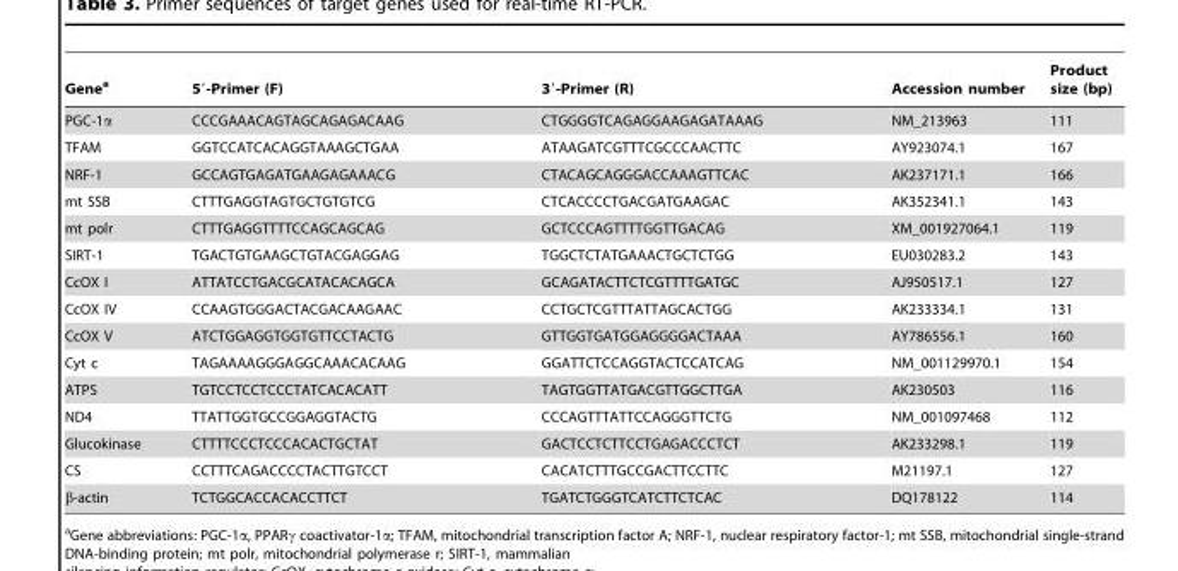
<table><thead><tr><td>Gene<sup>a</sup></td><td>5′-Primer (F)</td><td>3′-Primer (R)</td><td>Accession number</td><td>Product size (bp)</td></tr></thead><tbody><tr><td>PGC-1α</td><td>CCCGAAACAGTAGCAGAGACAAG</td><td>CTGGGGTCAGAGGAAGAGATAAAG</td><td>NM_213963</td><td>111</td></tr><tr><td>TFAM</td><td>GGTCCATCACAGGTAAAGCTGAA</td><td>ATAAGATCGTTTCGCCCAACTTC</td><td>AY923074.1</td><td>167</td></tr><tr><td>NRF-1</td><td>GCCAGTGAGATGAAGAGAAACG</td><td>CTACAGCAGGGACCAAAGTTCAC</td><td>AK237171.1</td><td>166</td></tr><tr><td>mt SSB</td><td>CTTTGAGGTAGTGCTGTGTCG</td><td>CTCACCCCTGACGATGAAGAC</td><td>AK352341.1</td><td>143</td></tr><tr><td>mt polr</td><td>CTTTGAGGTTTTCCAGCAGCAG</td><td>GCTCCCAGTTTTGGTTGACAG</td><td>XM_001927064.1</td><td>119</td></tr><tr><td>SIRT-1</td><td>TGACTGTGAAGCTGTACGAGGAG</td><td>TGGCTCTATGAAACTGCTCTGG</td><td>EU030283.2</td><td>143</td></tr><tr><td>CcOX I</td><td>ATTATCCTGACGCATACACAGCA</td><td>GCAGATACTTCTCGTTTTGATGC</td><td>AJ950517.1</td><td>127</td></tr><tr><td>CcOX IV</td><td>CCAAGTGGGACTACGACAAGAAC</td><td>CCTGCTCGTTTATTAGCACTGG</td><td>AK233334.1</td><td>131</td></tr><tr><td>CcOX V</td><td>ATCTGGAGGTGGTGTTCCTACTG</td><td>GTTGGTGATGGAGGGGACTAAA</td><td>AY786556.1</td><td>160</td></tr><tr><td>Cyt c</td><td>TAGAAAAGGGAGGCAAACACAAG</td><td>GGATTCTCCAGGTACTCCATCAG</td><td>NM_001129970.1</td><td>154</td></tr><tr><td>ATPS</td><td>TGTCCTCCTCCCTATCACACATT</td><td>TAGTGGTTATGACGTTGGCTTGA</td><td>AK230503</td><td>116</td></tr><tr><td>ND4</td><td>TTATTGGTGCCGGAGGTACTG</td><td>CCCAGTTTATTCCAGGGTTCTG</td><td>NM_001097468</td><td>112</td></tr><tr><td>Glucokinase</td><td>CTTTTCCCTCCCACACTGCTAT</td><td>GACTCCTCTTCCTGAGACCCTCT</td><td>AK233298.1</td><td>119</td></tr><tr><td>CS</td><td>CCTTTCAGACCCCTACTTGTCCT</td><td>CACATCTTTGCCGACTTCCTTC</td><td>M21197.1</td><td>127</td></tr><tr><td>β-actin</td><td>TCTGGCACCACACCTTCT</td><td>TGATCTGGGTCATCTTCTCAC</td><td>DQ178122</td><td>114</td></tr></tbody></table>